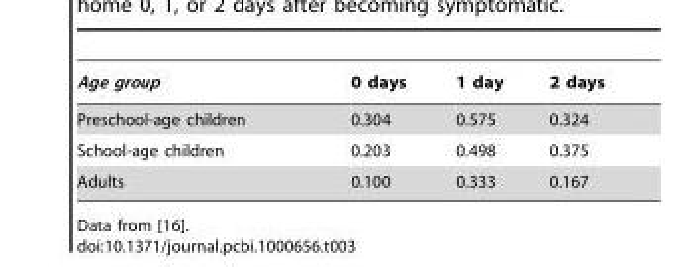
<table><thead><tr><td>Age group</td><td>0 days</td><td>1 day</td><td>2 days</td></tr></thead><tbody><tr><td>Preschool-age children</td><td>0.304</td><td>0.575</td><td>0.324</td></tr><tr><td>School-age children</td><td>0.203</td><td>0.498</td><td>0.375</td></tr><tr><td>Adults</td><td>0.100</td><td>0.333</td><td>0.167</td></tr></tbody></table>